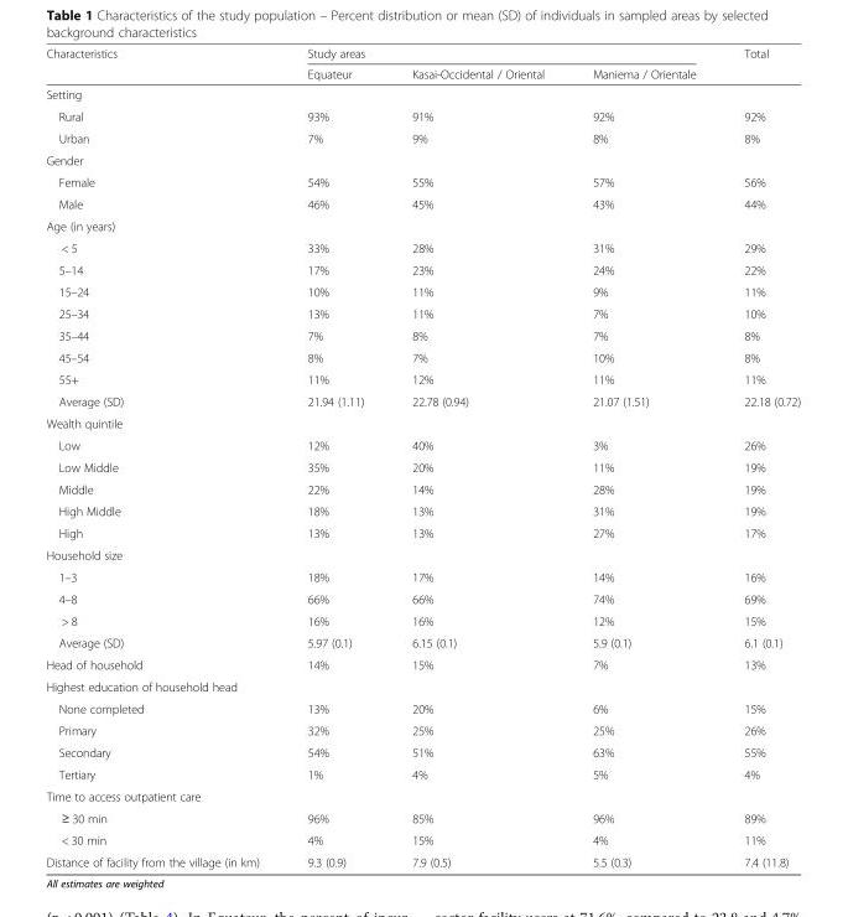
<table><thead><tr><td rowspan="2">Characteristics</td><td colspan="3">Study areas</td><td rowspan="2">Total</td></tr><tr><td>Equateur</td><td>Kasai-Occidental / Oriental</td><td>Maniema / Orientale</td></tr></thead><tbody><tr><td colspan="5">Setting</td></tr><tr><td>Rural</td><td>93%</td><td>91%</td><td>92%</td><td>92%</td></tr><tr><td>Urban</td><td>7%</td><td>9%</td><td>8%</td><td>8%</td></tr><tr><td colspan="5">Gender</td></tr><tr><td>Female</td><td>54%</td><td>55%</td><td>57%</td><td>56%</td></tr><tr><td>Male</td><td>46%</td><td>45%</td><td>43%</td><td>44%</td></tr><tr><td colspan="5">Age (in years)</td></tr><tr><td>&lt; 5</td><td>33%</td><td>28%</td><td>31%</td><td>29%</td></tr><tr><td>5–14</td><td>17%</td><td>23%</td><td>24%</td><td>22%</td></tr><tr><td>15–24</td><td>10%</td><td>11%</td><td>9%</td><td>11%</td></tr><tr><td>25–34</td><td>13%</td><td>11%</td><td>7%</td><td>10%</td></tr><tr><td>35–44</td><td>7%</td><td>8%</td><td>7%</td><td>8%</td></tr><tr><td>45–54</td><td>8%</td><td>7%</td><td>10%</td><td>8%</td></tr><tr><td>55+</td><td>11%</td><td>12%</td><td>11%</td><td>11%</td></tr><tr><td>Average (SD)</td><td>21.94 (1.11)</td><td>22.78 (0.94)</td><td>21.07 (1.51)</td><td>22.18 (0.72)</td></tr><tr><td colspan="5">Wealth quintile</td></tr><tr><td>Low</td><td>12%</td><td>40%</td><td>3%</td><td>26%</td></tr><tr><td>Low Middle</td><td>35%</td><td>20%</td><td>11%</td><td>19%</td></tr><tr><td>Middle</td><td>22%</td><td>14%</td><td>28%</td><td>19%</td></tr><tr><td>High Middle</td><td>18%</td><td>13%</td><td>31%</td><td>19%</td></tr><tr><td>High</td><td>13%</td><td>13%</td><td>27%</td><td>17%</td></tr><tr><td colspan="5">Household size</td></tr><tr><td>1–3</td><td>18%</td><td>17%</td><td>14%</td><td>16%</td></tr><tr><td>4–8</td><td>66%</td><td>66%</td><td>74%</td><td>69%</td></tr><tr><td>&gt; 8</td><td>16%</td><td>16%</td><td>12%</td><td>15%</td></tr><tr><td>Average (SD)</td><td>5.97 (0.1)</td><td>6.15 (0.1)</td><td>5.9 (0.1)</td><td>6.1 (0.1)</td></tr><tr><td>Head of household</td><td>14%</td><td>15%</td><td>7%</td><td>13%</td></tr><tr><td colspan="5">Highest education of household head</td></tr><tr><td>None completed</td><td>13%</td><td>20%</td><td>6%</td><td>15%</td></tr><tr><td>Primary</td><td>32%</td><td>25%</td><td>25%</td><td>26%</td></tr><tr><td>Secondary</td><td>54%</td><td>51%</td><td>63%</td><td>55%</td></tr><tr><td>Tertiary</td><td>1%</td><td>4%</td><td>5%</td><td>4%</td></tr><tr><td colspan="5">Time to access outpatient care</td></tr><tr><td>≥ 30 min</td><td>96%</td><td>85%</td><td>96%</td><td>89%</td></tr><tr><td>&lt; 30 min</td><td>4%</td><td>15%</td><td>4%</td><td>11%</td></tr><tr><td>Distance of facility from the village (in km)</td><td>9.3 (0.9)</td><td>7.9 (0.5)</td><td>5.5 (0.3)</td><td>7.4 (11.8)</td></tr></tbody></table>